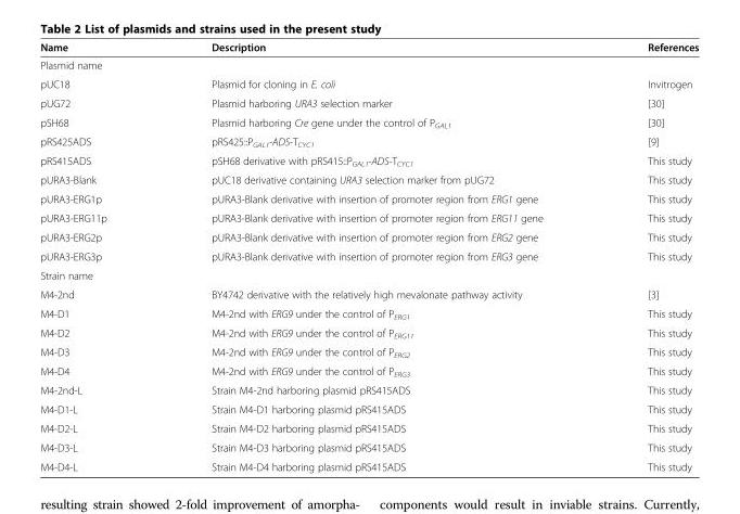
<table><thead><tr><td>Name</td><td>Description</td><td>References</td></tr></thead><tbody><tr><td colspan="3">Plasmid name</td></tr><tr><td>pUC18</td><td>Plasmid for cloning in E. coli</td><td>Invitrogen</td></tr><tr><td>pUG72</td><td>Plasmid harboring URA3 selection marker</td><td>[30]</td></tr><tr><td>pSH68</td><td>Plasmid harboring Cre gene under the control of P<sub>GAL1</sub></td><td>[30]</td></tr><tr><td>pRS425ADS</td><td>pRS425::P<sub>GAL1</sub>-ADS-T<sub>CYC1</sub></td><td>[9]</td></tr><tr><td>pRS415ADS</td><td>pSH68 derivative with pRS415::P<sub>GAL1</sub>-ADS-T<sub>CYC1</sub></td><td>This study</td></tr><tr><td>pURA3-Blank</td><td>pUC18 derivative containing URA3 selection marker from pUG72</td><td>This study</td></tr><tr><td>pURA3-ERG1p</td><td>pURA3-Blank derivative with insertion of promoter region from ERG1 gene</td><td>This study</td></tr><tr><td>pURA3-ERG11p</td><td>pURA3-Blank derivative with insertion of promoter region from ERG11 gene</td><td>This study</td></tr><tr><td>pURA3-ERG2p</td><td>pURA3-Blank derivative with insertion of promoter region from ERG2 gene</td><td>This study</td></tr><tr><td>pURA3-ERG3p</td><td>pURA3-Blank derivative with insertion of promoter region from ERG3 gene</td><td>This study</td></tr><tr><td colspan="3">Strain name</td></tr><tr><td>M4-2nd</td><td>BY4742 derivative with the relatively high mevalonate pathway activity</td><td>[3]</td></tr><tr><td>M4-D1</td><td>M4-2nd with ERG9 under the control of P<sub>ERG1</sub></td><td>This study</td></tr><tr><td>M4-D2</td><td>M4-2nd with ERG9 under the control of P<sub>ERG11</sub></td><td>This study</td></tr><tr><td>M4-D3</td><td>M4-2nd with ERG9 under the control of P<sub>ERG2</sub></td><td>This study</td></tr><tr><td>M4-D4</td><td>M4-2nd with ERG9 under the control of P<sub>ERG3</sub></td><td>This study</td></tr><tr><td>M4-2nd-L</td><td>Strain M4-2nd harboring plasmid pRS415ADS</td><td>This study</td></tr><tr><td>M4-D1-L</td><td>Strain M4-D1 harboring plasmid pRS415ADS</td><td>This study</td></tr><tr><td>M4-D2-L</td><td>Strain M4-D2 harboring plasmid pRS415ADS</td><td>This study</td></tr><tr><td>M4-D3-L</td><td>Strain M4-D3 harboring plasmid pRS415ADS</td><td>This study</td></tr><tr><td>M4-D4-L</td><td>Strain M4-D4 harboring plasmid pRS415ADS</td><td>This study</td></tr></tbody></table>